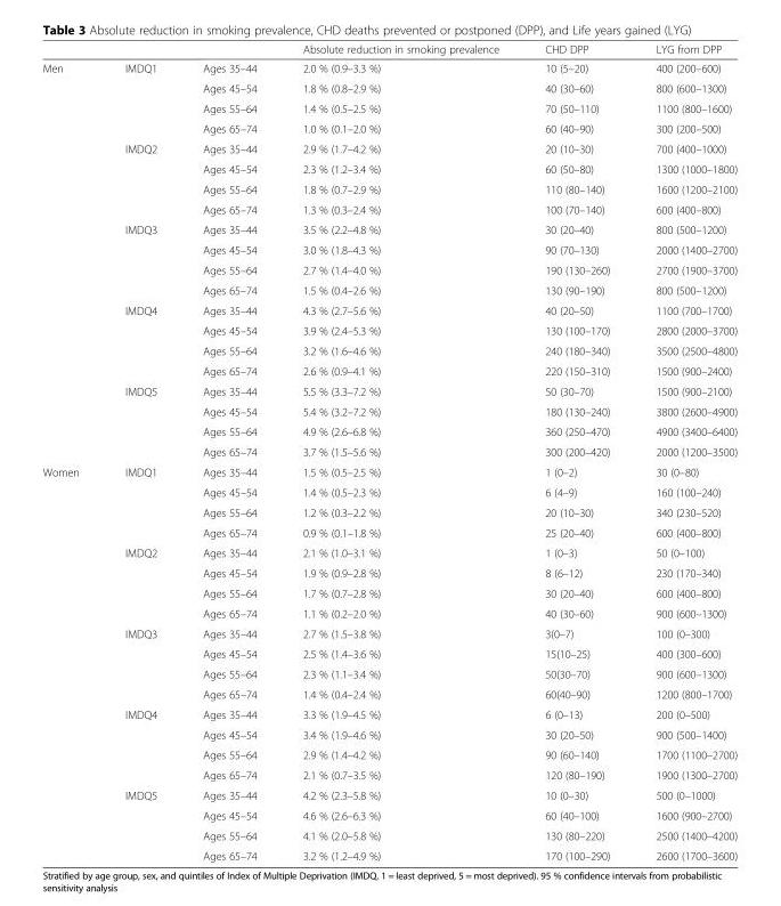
<table><thead><tr><td></td><td></td><td></td><td>Absolute reduction in smoking prevalence</td><td>CHD DPP</td><td>LYG from DPP</td></tr></thead><tbody><tr><td rowspan="20">Men</td><td>IMDQ1</td><td>Ages 35–44</td><td>2.0 % (0.9–3.3 %)</td><td>10 (5–20)</td><td>400 (200–600)</td></tr><tr><td></td><td>Ages 45–54</td><td>1.8 % (0.8–2.9 %)</td><td>40 (30–60)</td><td>800 (600–1300)</td></tr><tr><td></td><td>Ages 55–64</td><td>1.4 % (0.5–2.5 %)</td><td>70 (50–110)</td><td>1100 (800–1600)</td></tr><tr><td></td><td>Ages 65–74</td><td>1.0 % (0.1–2.0 %)</td><td>60 (40–90)</td><td>300 (200–500)</td></tr><tr><td>IMDQ2</td><td>Ages 35–44</td><td>2.9 % (1.7–4.2 %)</td><td>20 (10–30)</td><td>700 (400–1000)</td></tr><tr><td></td><td>Ages 45–54</td><td>2.3 % (1.2–3.4 %)</td><td>60 (50–80)</td><td>1300 (1000–1800)</td></tr><tr><td></td><td>Ages 55–64</td><td>1.8 % (0.7–2.9 %)</td><td>110 (80–140)</td><td>1600 (1200–2100)</td></tr><tr><td></td><td>Ages 65–74</td><td>1.3 % (0.3–2.4 %)</td><td>100 (70–140)</td><td>600 (400–800)</td></tr><tr><td>IMDQ3</td><td>Ages 35–44</td><td>3.5 % (2.2–4.8 %)</td><td>30 (20–40)</td><td>800 (500–1200)</td></tr><tr><td></td><td>Ages 45–54</td><td>3.0 % (1.8–4.3 %)</td><td>90 (70–130)</td><td>2000 (1400–2700)</td></tr><tr><td></td><td>Ages 55–64</td><td>2.7 % (1.4–4.0 %)</td><td>190 (130–260)</td><td>2700 (1900–3700)</td></tr><tr><td></td><td>Ages 65–74</td><td>1.5 % (0.4–2.6 %)</td><td>130 (90–190)</td><td>800 (500–1200)</td></tr><tr><td>IMDQ4</td><td>Ages 35–44</td><td>4.3 % (2.7–5.6 %)</td><td>40 (20–50)</td><td>1100 (700–1700)</td></tr><tr><td></td><td>Ages 45–54</td><td>3.9 % (2.4–5.3 %)</td><td>130 (100–170)</td><td>2800 (2000–3700)</td></tr><tr><td></td><td>Ages 55–64</td><td>3.2 % (1.6–4.6 %)</td><td>240 (180–340)</td><td>3500 (2500–4800)</td></tr><tr><td></td><td>Ages 65–74</td><td>2.6 % (0.9–4.1 %)</td><td>220 (150–310)</td><td>1500 (900–2400)</td></tr><tr><td>IMDQ5</td><td>Ages 35–44</td><td>5.5 % (3.3–7.2 %)</td><td>50 (30–70)</td><td>1500 (900–2100)</td></tr><tr><td></td><td>Ages 45–54</td><td>5.4 % (3.2–7.2 %)</td><td>180 (130–240)</td><td>3800 (2600–4900)</td></tr><tr><td></td><td>Ages 55–64</td><td>4.9 % (2.6–6.8 %)</td><td>360 (250–470)</td><td>4900 (3400–6400)</td></tr><tr><td></td><td>Ages 65–74</td><td>3.7 % (1.5–5.6 %)</td><td>300 (200–420)</td><td>2000 (1200–3500)</td></tr><tr><td rowspan="20">Women</td><td>IMDQ1</td><td>Ages 35–44</td><td>1.5 % (0.5–2.5 %)</td><td>1 (0–2)</td><td>30 (0–80)</td></tr><tr><td></td><td>Ages 45–54</td><td>1.4 % (0.5–2.3 %)</td><td>6 (4–9)</td><td>160 (100–240)</td></tr><tr><td></td><td>Ages 55–64</td><td>1.2 % (0.3–2.2 %)</td><td>20 (10–30)</td><td>340 (230–520)</td></tr><tr><td></td><td>Ages 65–74</td><td>0.9 % (0.1–1.8 %)</td><td>25 (20–40)</td><td>600 (400–800)</td></tr><tr><td>IMDQ2</td><td>Ages 35–44</td><td>2.1 % (1.0–3.1 %)</td><td>1 (0–3)</td><td>50 (0–100)</td></tr><tr><td></td><td>Ages 45–54</td><td>1.9 % (0.9–2.8 %)</td><td>8 (6–12)</td><td>230 (170–340)</td></tr><tr><td></td><td>Ages 55–64</td><td>1.7 % (0.7–2.8 %)</td><td>30 (20–40)</td><td>600 (400–800)</td></tr><tr><td></td><td>Ages 65–74</td><td>1.1 % (0.2–2.0 %)</td><td>40 (30–60)</td><td>900 (600–1300)</td></tr><tr><td>IMDQ3</td><td>Ages 35–44</td><td>2.7 % (1.5–3.8 %)</td><td>3(0–7)</td><td>100 (0–300)</td></tr><tr><td></td><td>Ages 45–54</td><td>2.5 % (1.4–3.6 %)</td><td>15(10–25)</td><td>400 (300–600)</td></tr><tr><td></td><td>Ages 55–64</td><td>2.3 % (1.1–3.4 %)</td><td>50(30–70)</td><td>900 (600–1300)</td></tr><tr><td></td><td>Ages 65–74</td><td>1.4 % (0.4–2.4 %)</td><td>60(40–90)</td><td>1200 (800–1700)</td></tr><tr><td>IMDQ4</td><td>Ages 35–44</td><td>3.3 % (1.9–4.5 %)</td><td>6 (0–13)</td><td>200 (0–500)</td></tr><tr><td></td><td>Ages 45–54</td><td>3.4 % (1.9–4.6 %)</td><td>30 (20–50)</td><td>900 (500–1400)</td></tr><tr><td></td><td>Ages 55–64</td><td>2.9 % (1.4–4.2 %)</td><td>90 (60–140)</td><td>1700 (1100–2700)</td></tr><tr><td></td><td>Ages 65–74</td><td>2.1 % (0.7–3.5 %)</td><td>120 (80–190)</td><td>1900 (1300–2700)</td></tr><tr><td>IMDQ5</td><td>Ages 35–44</td><td>4.2 % (2.3–5.8 %)</td><td>10 (0–30)</td><td>500 (0–1000)</td></tr><tr><td></td><td>Ages 45–54</td><td>4.6 % (2.6–6.3 %)</td><td>60 (40–100)</td><td>1600 (900–2700)</td></tr><tr><td></td><td>Ages 55–64</td><td>4.1 % (2.0–5.8 %)</td><td>130 (80–220)</td><td>2500 (1400–4200)</td></tr><tr><td></td><td>Ages 65–74</td><td>3.2 % (1.2–4.9 %)</td><td>170 (100–290)</td><td>2600 (1700–3600)</td></tr></tbody></table>